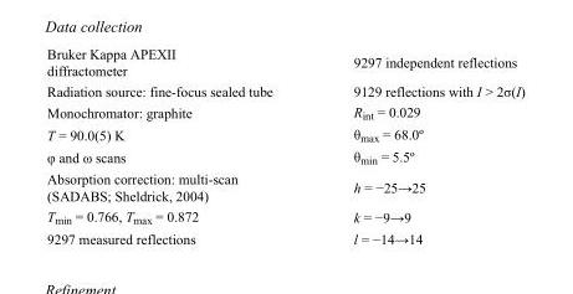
<table><tbody><tr><td>Bruker Kappa APEXII diffractometer</td><td>9297 independent reflections</td></tr><tr><td>Radiation source: fine-focus sealed tube</td><td>9129 reflections with I &gt; 2σ(I)</td></tr><tr><td>Monochromator: graphite</td><td>R<sub>int</sub> = 0.029</td></tr><tr><td>T = 90.0(5) K</td><td>θ<sub>max</sub> = 68.0º</td></tr><tr><td>φ and ω scans</td><td>θ<sub>min</sub> = 5.5º</td></tr><tr><td>Absorption correction: multi-scan (SADABS; Sheldrick, 2004)</td><td>h = −25→25</td></tr><tr><td>T<sub>min</sub> = 0.766, T<sub>max</sub> = 0.872</td><td>k = −9→9</td></tr><tr><td>9297 measured reflections</td><td>l = −14→14</td></tr></tbody></table>